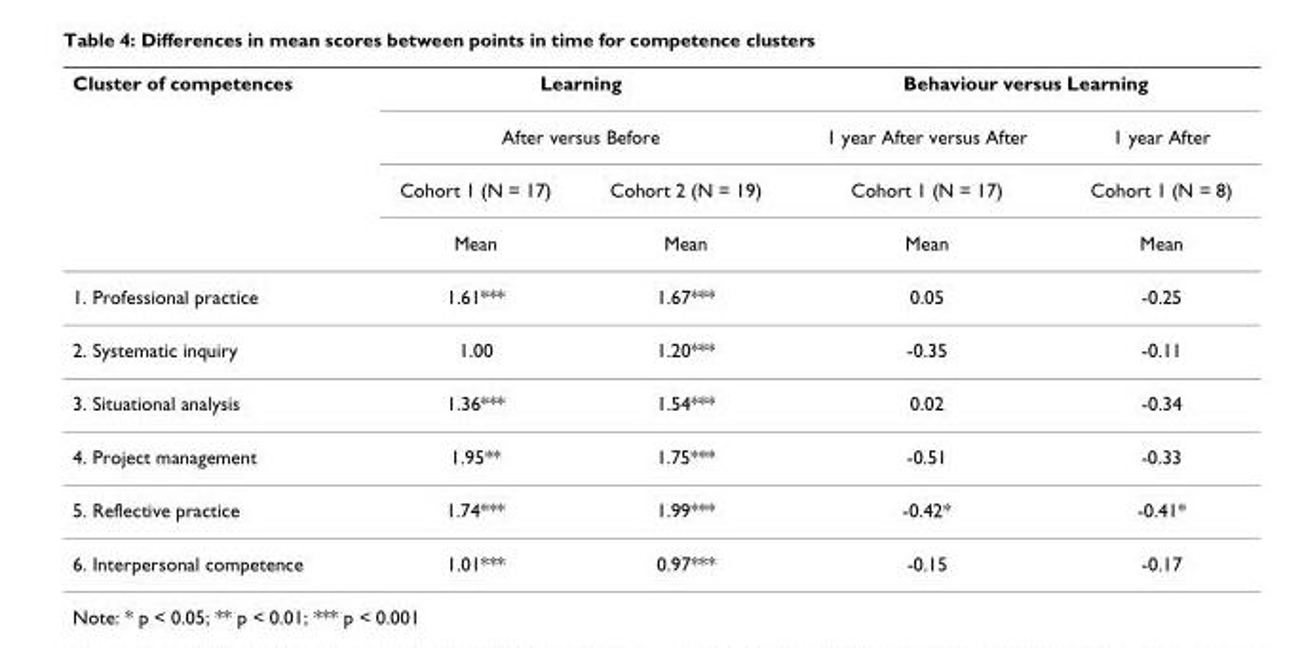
<table><thead><tr><td rowspan="4">Cluster of competences</td><td rowspan="2" colspan="2">Learning After versus Before</td><td colspan="2">Behaviour versus Learning</td></tr><tr><td rowspan="3">1 year After versus After Cohort 1 (N = 17) Mean</td><td rowspan="3">1 year After Cohort 1 (N = 8) Mean</td></tr><tr><td rowspan="2">Cohort 1 (N = 17) Mean</td><td rowspan="2">Cohort 2 (N = 19) Mean</td></tr><tr></tr></thead><tbody><tr><td>1. Professional practice</td><td>1.61***</td><td>1.67***</td><td>0.05</td><td>-0.25</td></tr><tr><td>2. Systematic inquiry</td><td>1.00</td><td>1.20***</td><td>-0.35</td><td>-0.11</td></tr><tr><td>3. Situational analysis</td><td>1.36***</td><td>1.54***</td><td>0.02</td><td>-0.34</td></tr><tr><td>4. Project management</td><td>1.95**</td><td>1.75***</td><td>-0.51</td><td>-0.33</td></tr><tr><td>5. Reflective practice</td><td>1.74***</td><td>1.99***</td><td>-0.42*</td><td>-0.41*</td></tr><tr><td>6. Interpersonal competence</td><td>1.01***</td><td>0.97***</td><td>-0.15</td><td>-0.17</td></tr></tbody></table>